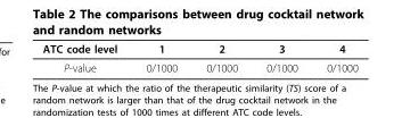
<table><thead><tr><td>ATC code level</td><td>1</td><td>2</td><td>3</td><td>4</td></tr></thead><tbody><tr><td>P-value</td><td>0/1000</td><td>0/1000</td><td>0/1000</td><td>0/1000</td></tr></tbody></table>